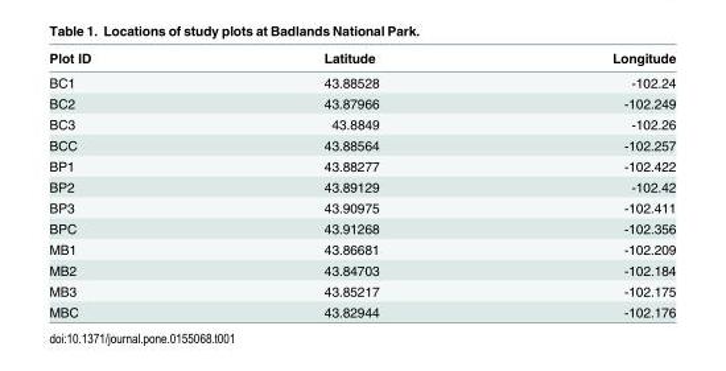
<table><thead><tr><td>Plot ID</td><td>Latitude</td><td>Longitude</td></tr></thead><tbody><tr><td>BC1</td><td>43.88528</td><td>-102.24</td></tr><tr><td>BC2</td><td>43.87966</td><td>-102.249</td></tr><tr><td>BC3</td><td>43.8849</td><td>-102.26</td></tr><tr><td>BCC</td><td>43.88564</td><td>-102.257</td></tr><tr><td>BP1</td><td>43.88277</td><td>-102.422</td></tr><tr><td>BP2</td><td>43.89129</td><td>-102.42</td></tr><tr><td>BP3</td><td>43.90975</td><td>-102.411</td></tr><tr><td>BPC</td><td>43.91268</td><td>-102.356</td></tr><tr><td>MB1</td><td>43.86681</td><td>-102.209</td></tr><tr><td>MB2</td><td>43.84703</td><td>-102.184</td></tr><tr><td>MB3</td><td>43.85217</td><td>-102.175</td></tr><tr><td>MBC</td><td>43.82944</td><td>-102.176</td></tr></tbody></table>